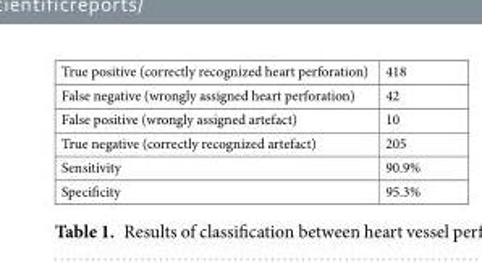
<table><tbody><tr><td>True positive (correctly recognized heart perforation)</td><td>418</td></tr><tr><td>False negative (wrongly assigned heart perforation)</td><td>42</td></tr><tr><td>False positive (wrongly assigned artefact)</td><td>10</td></tr><tr><td>True negative (correctly recognized artefact)</td><td>205</td></tr><tr><td>Sensitivity</td><td>90.9%</td></tr><tr><td>Specificity</td><td>95.3%</td></tr></tbody></table>